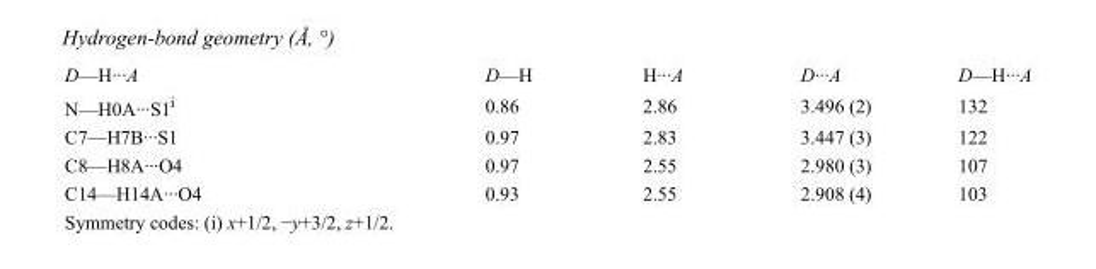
<table><tbody><tr><td>D—H···A</td><td>D—H</td><td>H···A</td><td>D···A</td><td>D—H···A</td></tr><tr><td>N—H0A···S1<sup>i</sup></td><td>0.86</td><td>2.86</td><td>3.496 (2)</td><td>132</td></tr><tr><td>C7—H7B···S1</td><td>0.97</td><td>2.83</td><td>3.447 (3)</td><td>122</td></tr><tr><td>C8—H8A···O4</td><td>0.97</td><td>2.55</td><td>2.980 (3)</td><td>107</td></tr><tr><td>C14—H14A···O4</td><td>0.93</td><td>2.55</td><td>2.908 (4)</td><td>103</td></tr></tbody></table>